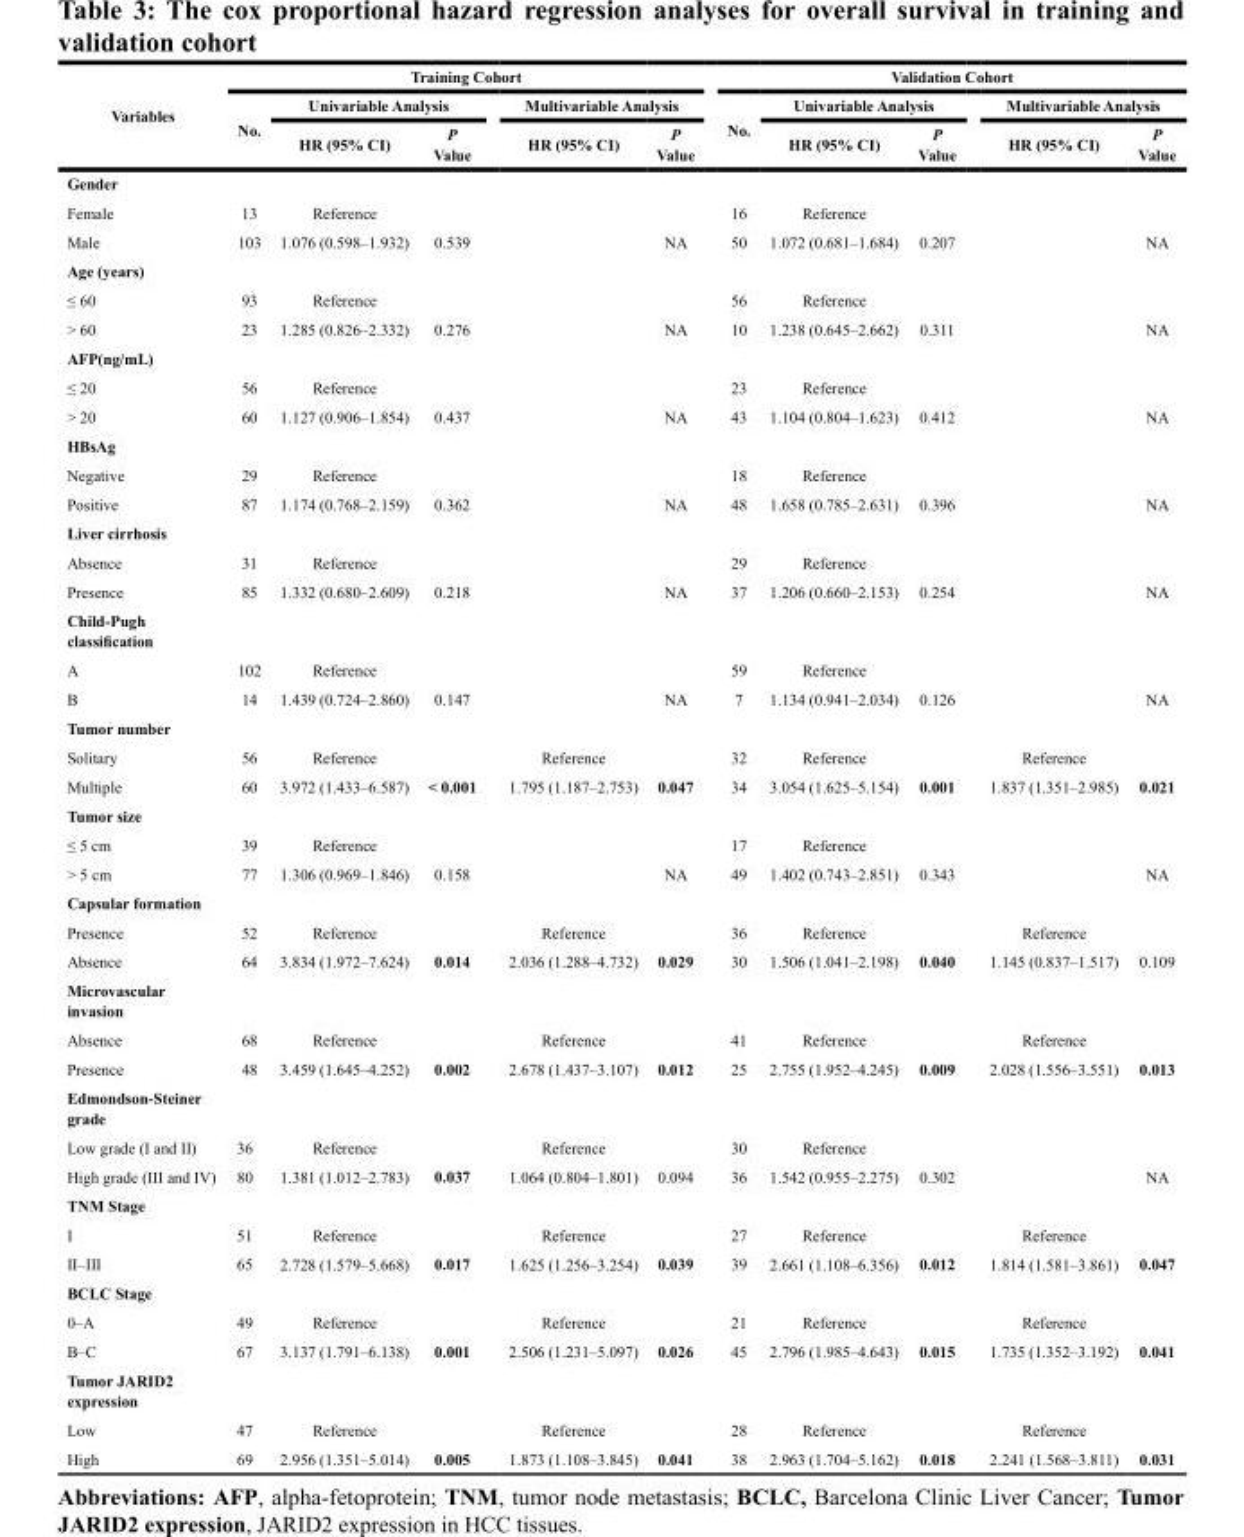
<table><thead><tr><td rowspan="3">Variables</td><td colspan="5">Training Cohort</td><td colspan="5">Validation Cohort</td></tr><tr><td rowspan="2">No.</td><td colspan="2">Univariable Analysis</td><td colspan="2">Multivariable Analysis</td><td rowspan="2">No.</td><td colspan="2">Univariable Analysis</td><td colspan="2">Multivariable Analysis</td></tr><tr><td>HR (95% CI)</td><td>P Value</td><td>HR (95% CI)</td><td>P Value</td><td>HR (95% CI)</td><td>P Value</td><td>HR (95% CI)</td><td>P Value</td></tr></thead><tbody><tr><td colspan="11">Gender</td></tr><tr><td>Female</td><td>13</td><td>Reference</td><td></td><td></td><td></td><td>16</td><td>Reference</td><td></td><td></td><td></td></tr><tr><td>Male</td><td>103</td><td>1.076 (0.598–1.932)</td><td>0.539</td><td></td><td>NA</td><td>50</td><td>1.072 (0.681–1.684)</td><td>0.207</td><td></td><td>NA</td></tr><tr><td colspan="11">Age (years)</td></tr><tr><td>≤ 60</td><td>93</td><td>Reference</td><td></td><td></td><td></td><td>56</td><td>Reference</td><td></td><td></td><td></td></tr><tr><td>&gt; 60</td><td>23</td><td>1.285 (0.826–2.332)</td><td>0.276</td><td></td><td>NA</td><td>10</td><td>1.238 (0.645–2.662)</td><td>0.311</td><td></td><td>NA</td></tr><tr><td colspan="11">AFP(ng/mL)</td></tr><tr><td>≤ 20</td><td>56</td><td>Reference</td><td></td><td></td><td></td><td>23</td><td>Reference</td><td></td><td></td><td></td></tr><tr><td>&gt; 20</td><td>60</td><td>1.127 (0.906–1.854)</td><td>0.437</td><td></td><td>NA</td><td>43</td><td>1.104 (0.804–1.623)</td><td>0.412</td><td></td><td>NA</td></tr><tr><td colspan="11">HBsAg</td></tr><tr><td>Negative</td><td>29</td><td>Reference</td><td></td><td></td><td></td><td>18</td><td>Reference</td><td></td><td></td><td></td></tr><tr><td>Positive</td><td>87</td><td>1.174 (0.768–2.159)</td><td>0.362</td><td></td><td>NA</td><td>48</td><td>1.658 (0.785–2.631)</td><td>0.396</td><td></td><td>NA</td></tr><tr><td colspan="11">Liver cirrhosis</td></tr><tr><td>Absence</td><td>31</td><td>Reference</td><td></td><td></td><td></td><td>29</td><td>Reference</td><td></td><td></td><td></td></tr><tr><td>Presence</td><td>85</td><td>1.332 (0.680–2.609)</td><td>0.218</td><td></td><td>NA</td><td>37</td><td>1.206 (0.660–2.153)</td><td>0.254</td><td></td><td>NA</td></tr><tr><td colspan="11">Child-Pugh classification</td></tr><tr><td>A</td><td>102</td><td>Reference</td><td></td><td></td><td></td><td>59</td><td>Reference</td><td></td><td></td><td></td></tr><tr><td>B</td><td>14</td><td>1.439 (0.724–2.860)</td><td>0.147</td><td></td><td>NA</td><td>7</td><td>1.134 (0.941–2.034)</td><td>0.126</td><td></td><td>NA</td></tr><tr><td colspan="11">Tumor number</td></tr><tr><td>Solitary</td><td>56</td><td>Reference</td><td></td><td>Reference</td><td></td><td>32</td><td>Reference</td><td></td><td>Reference</td><td></td></tr><tr><td>Multiple</td><td>60</td><td>3.972 (1.433–6.587)</td><td>&lt; 0.001</td><td>1.795 (1.187–2.753)</td><td>0.047</td><td>34</td><td>3.054 (1.625–5.154)</td><td>0.001</td><td>1.837 (1.351–2.985)</td><td>0.021</td></tr><tr><td colspan="11">Tumor size</td></tr><tr><td>≤ 5 cm</td><td>39</td><td>Reference</td><td></td><td></td><td></td><td>17</td><td>Reference</td><td></td><td></td><td></td></tr><tr><td>&gt; 5 cm</td><td>77</td><td>1.306 (0.969–1.846)</td><td>0.158</td><td></td><td>NA</td><td>49</td><td>1.402 (0.743–2.851)</td><td>0.343</td><td></td><td>NA</td></tr><tr><td colspan="11">Capsular formation</td></tr><tr><td>Presence</td><td>52</td><td>Reference</td><td></td><td>Reference</td><td></td><td>36</td><td>Reference</td><td></td><td>Reference</td><td></td></tr><tr><td>Absence</td><td>64</td><td>3.834 (1.972–7.624)</td><td>0.014</td><td>2.036 (1.288–4.732)</td><td>0.029</td><td>30</td><td>1.506 (1.041–2.198)</td><td>0.040</td><td>1.145 (0.837–1.517)</td><td>0.109</td></tr><tr><td colspan="11">Microvascular invasion</td></tr><tr><td>Absence</td><td>68</td><td>Reference</td><td></td><td>Reference</td><td></td><td>41</td><td>Reference</td><td></td><td>Reference</td><td></td></tr><tr><td>Presence</td><td>48</td><td>3.459 (1.645–4.252)</td><td>0.002</td><td>2.678 (1.437–3.107)</td><td>0.012</td><td>25</td><td>2.755 (1.952–4.245)</td><td>0.009</td><td>2.028 (1.556–3.551)</td><td>0.013</td></tr><tr><td colspan="11">Edmondson-Steiner grade</td></tr><tr><td>Low grade (I and II)</td><td>36</td><td>Reference</td><td></td><td>Reference</td><td></td><td>30</td><td>Reference</td><td></td><td></td><td></td></tr><tr><td>High grade (III and IV)</td><td>80</td><td>1.381 (1.012–2.783)</td><td>0.037</td><td>1.064 (0.804–1.801)</td><td>0.094</td><td>36</td><td>1.542 (0.955–2.275)</td><td>0.302</td><td></td><td>NA</td></tr><tr><td colspan="11">TNM Stage</td></tr><tr><td>I</td><td>51</td><td>Reference</td><td></td><td>Reference</td><td></td><td>27</td><td>Reference</td><td></td><td>Reference</td><td></td></tr><tr><td>II–III</td><td>65</td><td>2.728 (1.579–5.668)</td><td>0.017</td><td>1.625 (1.256–3.254)</td><td>0.039</td><td>39</td><td>2.661 (1.108–6.356)</td><td>0.012</td><td>1.814 (1.581–3.861)</td><td>0.047</td></tr><tr><td colspan="11">BCLC Stage</td></tr><tr><td>0–A</td><td>49</td><td>Reference</td><td></td><td>Reference</td><td></td><td>21</td><td>Reference</td><td></td><td>Reference</td><td></td></tr><tr><td>B–C</td><td>67</td><td>3.137 (1.791–6.138)</td><td>0.001</td><td>2.506 (1.231–5.097)</td><td>0.026</td><td>45</td><td>2.796 (1.985–4.643)</td><td>0.015</td><td>1.735 (1.352–3.192)</td><td>0.041</td></tr><tr><td colspan="11">Tumor JARID2 expression</td></tr><tr><td>Low</td><td>47</td><td>Reference</td><td></td><td>Reference</td><td></td><td>28</td><td>Reference</td><td></td><td>Reference</td><td></td></tr><tr><td>High</td><td>69</td><td>2.956 (1.351–5.014)</td><td>0.005</td><td>1.873 (1.108–3.845)</td><td>0.041</td><td>38</td><td>2.963 (1.704–5.162)</td><td>0.018</td><td>2.241 (1.568–3.811)</td><td>0.031</td></tr></tbody></table>